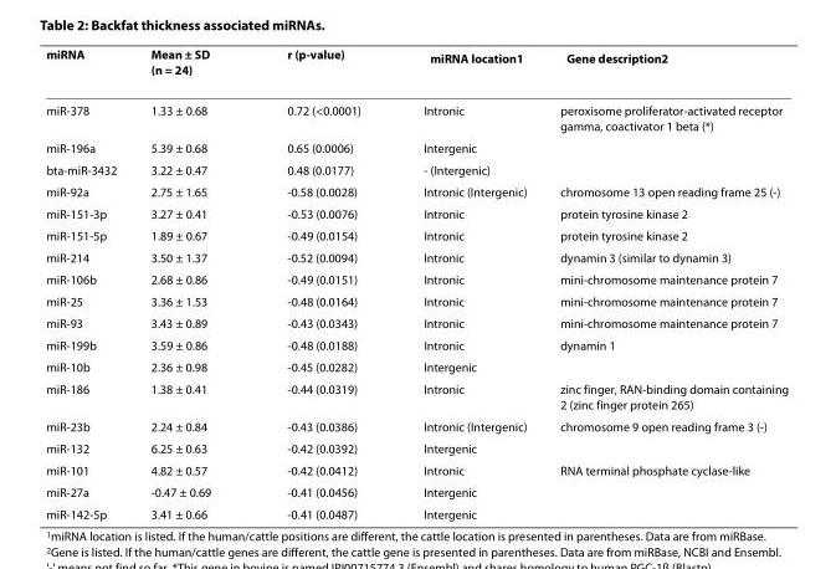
<table><thead><tr><td>miRNA</td><td>Mean ± SD (n = 24)</td><td>r (p-value)</td><td>miRNA location<sup>1</sup></td><td>Gene description<sup>2</sup></td></tr></thead><tbody><tr><td>miR-378</td><td>1.33 ± 0.68</td><td>0.72 (&lt;0.0001)</td><td>Intronic</td><td>peroxisome proliferator-activated receptor gamma, coactivator 1 beta (*)</td></tr><tr><td>miR-196a</td><td>5.39 ± 0.68</td><td>0.65 (0.0006)</td><td>Intergenic</td><td></td></tr><tr><td>bta-miR-3432</td><td>3.22 ± 0.47</td><td>0.48 (0.0177)</td><td>- (Intergenic)</td><td></td></tr><tr><td>miR-92a</td><td>2.75 ± 1.65</td><td>-0.58 (0.0028)</td><td>Intronic (Intergenic)</td><td>chromosome 13 open reading frame 25 (-)</td></tr><tr><td>miR-151-3p</td><td>3.27 ± 0.41</td><td>-0.53 (0.0076)</td><td>Intronic</td><td>protein tyrosine kinase 2</td></tr><tr><td>miR-151-5p</td><td>1.89 ± 0.67</td><td>-0.49 (0.0154)</td><td>Intronic</td><td>protein tyrosine kinase 2</td></tr><tr><td>miR-214</td><td>3.50 ± 1.37</td><td>-0.52 (0.0094)</td><td>Intronic</td><td>dynamin 3 (similar to dynamin 3)</td></tr><tr><td>miR-106b</td><td>2.68 ± 0.86</td><td>-0.49 (0.0151)</td><td>Intronic</td><td>mini-chromosome maintenance protein 7</td></tr><tr><td>miR-25</td><td>3.36 ± 1.53</td><td>-0.48 (0.0164)</td><td>Intronic</td><td>mini-chromosome maintenance protein 7</td></tr><tr><td>miR-93</td><td>3.43 ± 0.89</td><td>-0.43 (0.0343)</td><td>Intronic</td><td>mini-chromosome maintenance protein 7</td></tr><tr><td>miR-199b</td><td>3.59 ± 0.86</td><td>-0.48 (0.0188)</td><td>Intronic</td><td>dynamin 1</td></tr><tr><td>miR-10b</td><td>2.36 ± 0.98</td><td>-0.45 (0.0282)</td><td>Intergenic</td><td></td></tr><tr><td>miR-186</td><td>1.38 ± 0.41</td><td>-0.44 (0.0319)</td><td>Intronic</td><td>zinc finger, RAN-binding domain containing 2 (zinc finger protein 265)</td></tr><tr><td>miR-23b</td><td>2.24 ± 0.84</td><td>-0.43 (0.0386)</td><td>Intronic (Intergenic)</td><td>chromosome 9 open reading frame 3 (-)</td></tr><tr><td>miR-132</td><td>6.25 ± 0.63</td><td>-0.42 (0.0392)</td><td>Intergenic</td><td></td></tr><tr><td>miR-101</td><td>4.82 ± 0.57</td><td>-0.42 (0.0412)</td><td>Intronic</td><td>RNA terminal phosphate cyclase-like</td></tr><tr><td>miR-27a</td><td>-0.47 ± 0.69</td><td>-0.41 (0.0456)</td><td>Intergenic</td><td></td></tr><tr><td>miR-142-5p</td><td>3.41 ± 0.66</td><td>-0.41 (0.0487)</td><td>Intergenic</td><td></td></tr></tbody></table>